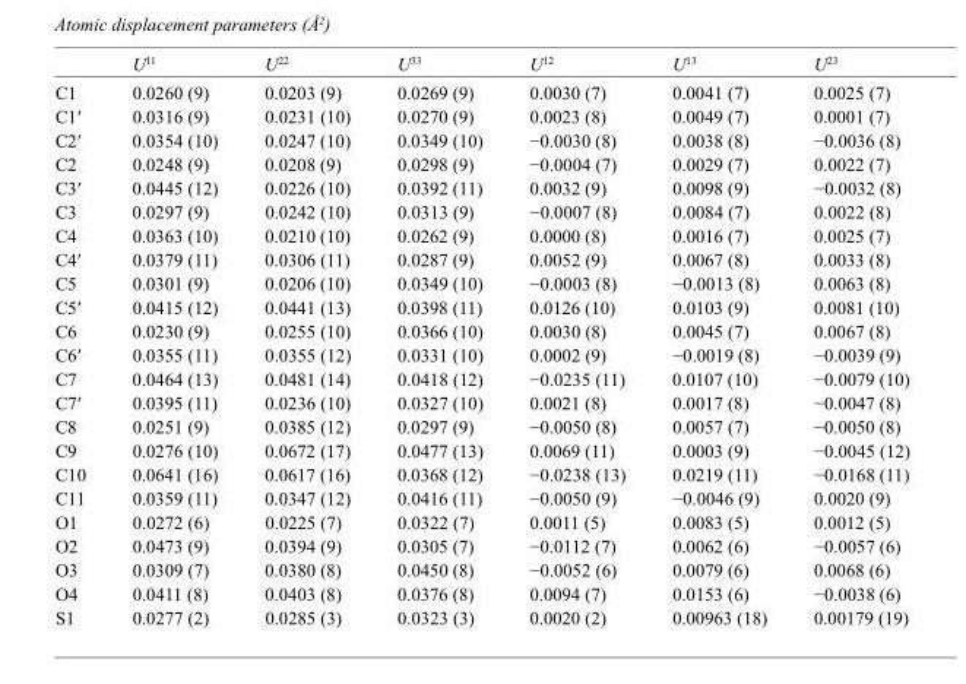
<table><thead><tr><td></td><td>U<sup>11</sup></td><td>U<sup>22</sup></td><td>U<sup>33</sup></td><td>U<sup>12</sup></td><td>U<sup>13</sup></td><td>U<sup>23</sup></td></tr></thead><tbody><tr><td>C1</td><td>0.0260 (9)</td><td>0.0203 (9)</td><td>0.0269 (9)</td><td>0.0030 (7)</td><td>0.0041 (7)</td><td>0.0025 (7)</td></tr><tr><td>C1′</td><td>0.0316 (9)</td><td>0.0231 (10)</td><td>0.0270 (9)</td><td>0.0023 (8)</td><td>0.0049 (7)</td><td>0.0001 (7)</td></tr><tr><td>C2′</td><td>0.0354 (10)</td><td>0.0247 (10)</td><td>0.0349 (10)</td><td>−0.0030 (8)</td><td>0.0038 (8)</td><td>−0.0036 (8)</td></tr><tr><td>C2</td><td>0.0248 (9)</td><td>0.0208 (9)</td><td>0.0298 (9)</td><td>−0.0004 (7)</td><td>0.0029 (7)</td><td>0.0022 (7)</td></tr><tr><td>C3′</td><td>0.0445 (12)</td><td>0.0226 (10)</td><td>0.0392 (11)</td><td>0.0032 (9)</td><td>0.0098 (9)</td><td>−0.0032 (8)</td></tr><tr><td>C3</td><td>0.0297 (9)</td><td>0.0242 (10)</td><td>0.0313 (9)</td><td>−0.0007 (8)</td><td>0.0084 (7)</td><td>0.0022 (8)</td></tr><tr><td>C4</td><td>0.0363 (10)</td><td>0.0210 (10)</td><td>0.0262 (9)</td><td>0.0000 (8)</td><td>0.0016 (7)</td><td>0.0025 (7)</td></tr><tr><td>C4′</td><td>0.0379 (11)</td><td>0.0306 (11)</td><td>0.0287 (9)</td><td>0.0052 (9)</td><td>0.0067 (8)</td><td>0.0033 (8)</td></tr><tr><td>C5</td><td>0.0301 (9)</td><td>0.0206 (10)</td><td>0.0349 (10)</td><td>−0.0003 (8)</td><td>−0.0013 (8)</td><td>0.0063 (8)</td></tr><tr><td>C5′</td><td>0.0415 (12)</td><td>0.0441 (13)</td><td>0.0398 (11)</td><td>0.0126 (10)</td><td>0.0103 (9)</td><td>0.0081 (10)</td></tr><tr><td>C6</td><td>0.0230 (9)</td><td>0.0255 (10)</td><td>0.0366 (10)</td><td>0.0030 (8)</td><td>0.0045 (7)</td><td>0.0067 (8)</td></tr><tr><td>C6′</td><td>0.0355 (11)</td><td>0.0355 (12)</td><td>0.0331 (10)</td><td>0.0002 (9)</td><td>−0.0019 (8)</td><td>−0.0039 (9)</td></tr><tr><td>C7</td><td>0.0464 (13)</td><td>0.0481 (14)</td><td>0.0418 (12)</td><td>−0.0235 (11)</td><td>0.0107 (10)</td><td>−0.0079 (10)</td></tr><tr><td>C7′</td><td>0.0395 (11)</td><td>0.0236 (10)</td><td>0.0327 (10)</td><td>0.0021 (8)</td><td>0.0017 (8)</td><td>−0.0047 (8)</td></tr><tr><td>C8</td><td>0.0251 (9)</td><td>0.0385 (12)</td><td>0.0297 (9)</td><td>−0.0050 (8)</td><td>0.0057 (7)</td><td>−0.0050 (8)</td></tr><tr><td>C9</td><td>0.0276 (10)</td><td>0.0672 (17)</td><td>0.0477 (13)</td><td>0.0069 (11)</td><td>0.0003 (9)</td><td>−0.0045 (12)</td></tr><tr><td>C10</td><td>0.0641 (16)</td><td>0.0617 (16)</td><td>0.0368 (12)</td><td>−0.0238 (13)</td><td>0.0219 (11)</td><td>−0.0168 (11)</td></tr><tr><td>C11</td><td>0.0359 (11)</td><td>0.0347 (12)</td><td>0.0416 (11)</td><td>−0.0050 (9)</td><td>−0.0046 (9)</td><td>0.0020 (9)</td></tr><tr><td>O1</td><td>0.0272 (6)</td><td>0.0225 (7)</td><td>0.0322 (7)</td><td>0.0011 (5)</td><td>0.0083 (5)</td><td>0.0012 (5)</td></tr><tr><td>O2</td><td>0.0473 (9)</td><td>0.0394 (9)</td><td>0.0305 (7)</td><td>−0.0112 (7)</td><td>0.0062 (6)</td><td>−0.0057 (6)</td></tr><tr><td>O3</td><td>0.0309 (7)</td><td>0.0380 (8)</td><td>0.0450 (8)</td><td>−0.0052 (6)</td><td>0.0079 (6)</td><td>0.0068 (6)</td></tr><tr><td>O4</td><td>0.0411 (8)</td><td>0.0403 (8)</td><td>0.0376 (8)</td><td>0.0094 (7)</td><td>0.0153 (6)</td><td>−0.0038 (6)</td></tr><tr><td>S1</td><td>0.0277 (2)</td><td>0.0285 (3)</td><td>0.0323 (3)</td><td>0.0020 (2)</td><td>0.00963 (18)</td><td>0.00179 (19)</td></tr></tbody></table>